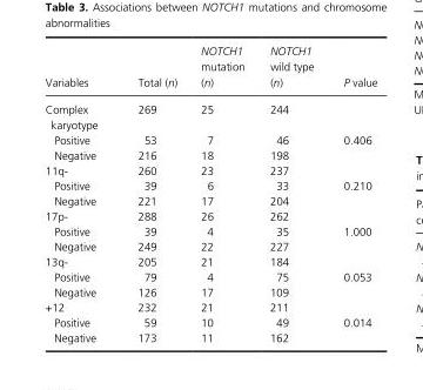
<table><thead><tr><td>Variables</td><td>Total (n)</td><td>NOTCH1 mutation (n)</td><td>NOTCH1 wild type (n)</td><td>P value</td></tr></thead><tbody><tr><td>Complex karyotype</td><td>269</td><td>25</td><td>244</td><td></td></tr><tr><td>Positive</td><td>53</td><td>7</td><td>46</td><td>0.406</td></tr><tr><td>Negative</td><td>216</td><td>18</td><td>198</td><td></td></tr><tr><td>11q-</td><td>260</td><td>23</td><td>237</td><td></td></tr><tr><td>Positive</td><td>39</td><td>6</td><td>33</td><td>0.210</td></tr><tr><td>Negative</td><td>221</td><td>17</td><td>204</td><td></td></tr><tr><td>17p-</td><td>288</td><td>26</td><td>262</td><td></td></tr><tr><td>Positive</td><td>39</td><td>4</td><td>35</td><td>1.000</td></tr><tr><td>Negative</td><td>249</td><td>22</td><td>227</td><td></td></tr><tr><td>13q-</td><td>205</td><td>21</td><td>184</td><td></td></tr><tr><td>Positive</td><td>79</td><td>4</td><td>75</td><td>0.053</td></tr><tr><td>Negative</td><td>126</td><td>17</td><td>109</td><td></td></tr><tr><td>+12</td><td>232</td><td>21</td><td>211</td><td></td></tr><tr><td>Positive</td><td>59</td><td>10</td><td>49</td><td>0.014</td></tr><tr><td>Negative</td><td>173</td><td>11</td><td>162</td><td></td></tr></tbody></table>